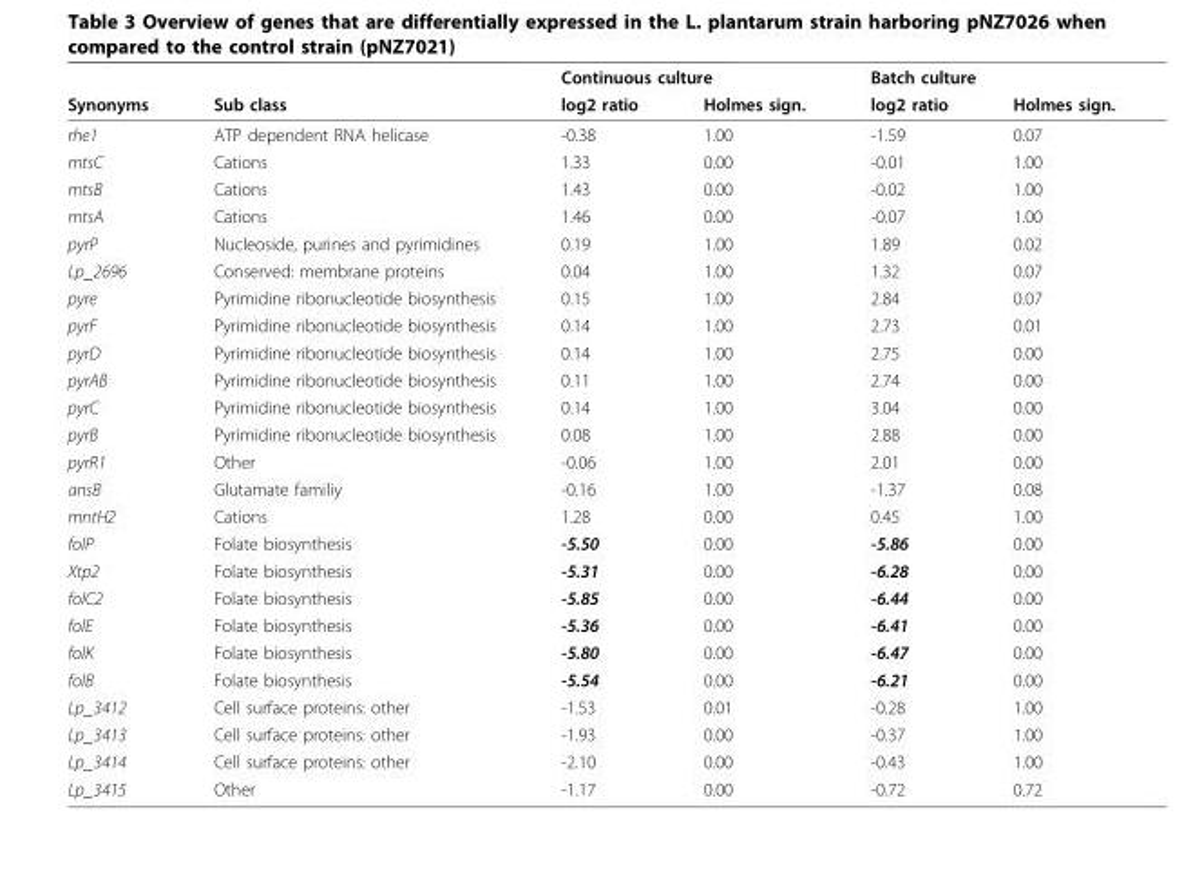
<table><thead><tr><td rowspan="2">Synonyms</td><td rowspan="2">Sub class</td><td colspan="2">Continuous culture</td><td colspan="2">Batch culture</td></tr><tr><td>log2 ratio</td><td>Holmes sign.</td><td>log2 ratio</td><td>Holmes sign.</td></tr></thead><tbody><tr><td>rhe1</td><td>ATP dependent RNA helicase</td><td>-0.38</td><td>1.00</td><td>-1.59</td><td>0.07</td></tr><tr><td>mtsC</td><td>Cations</td><td>1.33</td><td>0.00</td><td>-0.01</td><td>1.00</td></tr><tr><td>mtsB</td><td>Cations</td><td>1.43</td><td>0.00</td><td>-0.02</td><td>1.00</td></tr><tr><td>mtsA</td><td>Cations</td><td>1.46</td><td>0.00</td><td>-0.07</td><td>1.00</td></tr><tr><td>pyrP</td><td>Nucleoside, purines and pyrimidines</td><td>0.19</td><td>1.00</td><td>1.89</td><td>0.02</td></tr><tr><td>Lp_2696</td><td>Conserved: membrane proteins</td><td>0.04</td><td>1.00</td><td>1.32</td><td>0.07</td></tr><tr><td>pyre</td><td>Pyrimidine ribonucleotide biosynthesis</td><td>0.15</td><td>1.00</td><td>2.84</td><td>0.07</td></tr><tr><td>pyrF</td><td>Pyrimidine ribonucleotide biosynthesis</td><td>0.14</td><td>1.00</td><td>2.73</td><td>0.01</td></tr><tr><td>pyrD</td><td>Pyrimidine ribonucleotide biosynthesis</td><td>0.14</td><td>1.00</td><td>2.75</td><td>0.00</td></tr><tr><td>pyrAB</td><td>Pyrimidine ribonucleotide biosynthesis</td><td>0.11</td><td>1.00</td><td>2.74</td><td>0.00</td></tr><tr><td>pyrC</td><td>Pyrimidine ribonucleotide biosynthesis</td><td>0.14</td><td>1.00</td><td>3.04</td><td>0.00</td></tr><tr><td>pyrB</td><td>Pyrimidine ribonucleotide biosynthesis</td><td>0.08</td><td>1.00</td><td>2.88</td><td>0.00</td></tr><tr><td>pyrR1</td><td>Other</td><td>-0.06</td><td>1.00</td><td>2.01</td><td>0.00</td></tr><tr><td>ansB</td><td>Glutamate familiy</td><td>-0.16</td><td>1.00</td><td>-1.37</td><td>0.08</td></tr><tr><td>mntH2</td><td>Cations</td><td>1.28</td><td>0.00</td><td>0.45</td><td>1.00</td></tr><tr><td>folP</td><td>Folate biosynthesis</td><td>-5.50</td><td>0.00</td><td>-5.86</td><td>0.00</td></tr><tr><td>Xtp2</td><td>Folate biosynthesis</td><td>-5.31</td><td>0.00</td><td>-6.28</td><td>0.00</td></tr><tr><td>folC2</td><td>Folate biosynthesis</td><td>-5.85</td><td>0.00</td><td>-6.44</td><td>0.00</td></tr><tr><td>folE</td><td>Folate biosynthesis</td><td>-5.36</td><td>0.00</td><td>-6.41</td><td>0.00</td></tr><tr><td>folK</td><td>Folate biosynthesis</td><td>-5.80</td><td>0.00</td><td>-6.47</td><td>0.00</td></tr><tr><td>folB</td><td>Folate biosynthesis</td><td>-5.54</td><td>0.00</td><td>-6.21</td><td>0.00</td></tr><tr><td>Lp_3412</td><td>Cell surface proteins: other</td><td>-1.53</td><td>0.01</td><td>-0.28</td><td>1.00</td></tr><tr><td>Lp_3413</td><td>Cell surface proteins: other</td><td>-1.93</td><td>0.00</td><td>-0.37</td><td>1.00</td></tr><tr><td>Lp_3414</td><td>Cell surface proteins: other</td><td>-2.10</td><td>0.00</td><td>-0.43</td><td>1.00</td></tr><tr><td>Lp_3415</td><td>Other</td><td>-1.17</td><td>0.00</td><td>-0.72</td><td>0.72</td></tr></tbody></table>